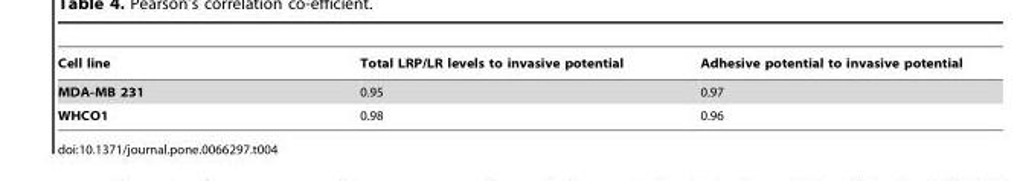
<table><thead><tr><td>Cell line</td><td>Total LRP/LR levels to invasive potential</td><td>Adhesive potential to invasive potential</td></tr></thead><tbody><tr><td>MDA-MB 231</td><td>0.95</td><td>0.97</td></tr><tr><td>WHCO1</td><td>0.98</td><td>0.96</td></tr></tbody></table>